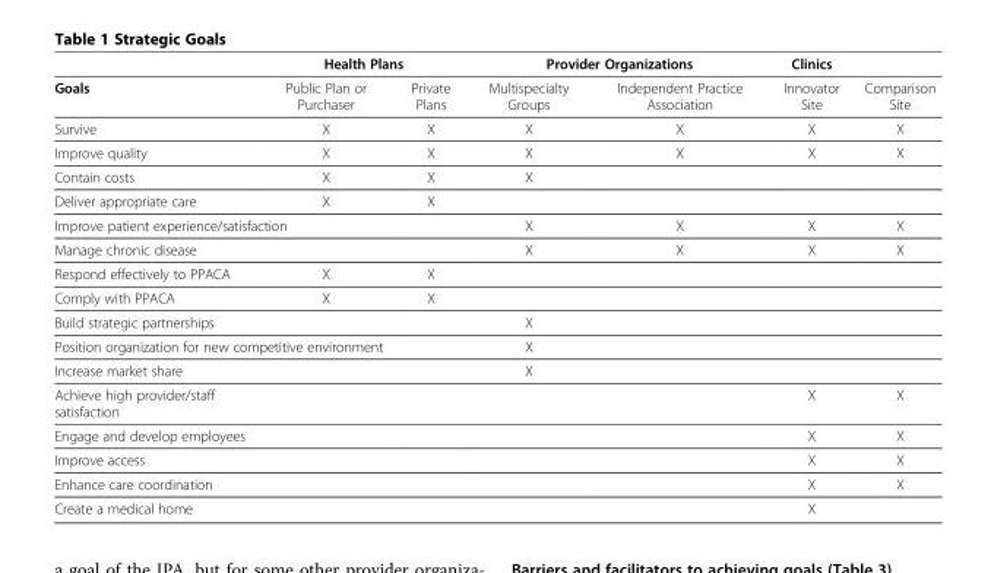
<table><thead><tr><td rowspan="2">Goals</td><td colspan="2">Health Plans</td><td colspan="2">Provider Organizations</td><td rowspan="2">Clinics Innovator Site</td><td rowspan="2">Comparison Site</td></tr><tr><td>Public Plan or Purchaser</td><td>Private Plans</td><td>Multispecialty Groups</td><td>Independent Practice Association</td></tr></thead><tbody><tr><td>Survive</td><td>X</td><td>X</td><td>X</td><td>X</td><td>X</td><td>X</td></tr><tr><td>Improve quality</td><td>X</td><td>X</td><td>X</td><td>X</td><td>X</td><td>X</td></tr><tr><td>Contain costs</td><td>X</td><td>X</td><td>X</td><td></td><td></td><td></td></tr><tr><td>Deliver appropriate care</td><td>X</td><td>X</td><td></td><td></td><td></td><td></td></tr><tr><td colspan="2">Improve patient experience/satisfaction</td><td></td><td>X</td><td>X</td><td>X</td><td>X</td></tr><tr><td>Manage chronic disease</td><td></td><td></td><td>X</td><td>X</td><td>X</td><td>X</td></tr><tr><td>Respond effectively to PPACA</td><td>X</td><td>X</td><td></td><td></td><td></td><td></td></tr><tr><td>Comply with PPACA</td><td>X</td><td>X</td><td></td><td></td><td></td><td></td></tr><tr><td>Build strategic partnerships</td><td></td><td></td><td>X</td><td></td><td></td><td></td></tr><tr><td colspan="3">Position organization for new competitive environment</td><td>X</td><td></td><td></td><td></td></tr><tr><td>Increase market share</td><td></td><td></td><td>X</td><td></td><td></td><td></td></tr><tr><td>Achieve high provider/staff satisfaction</td><td></td><td></td><td></td><td></td><td>X</td><td>X</td></tr><tr><td>Engage and develop employees</td><td></td><td></td><td></td><td></td><td>X</td><td>X</td></tr><tr><td>Improve access</td><td></td><td></td><td></td><td></td><td>X</td><td>X</td></tr><tr><td>Enhance care coordination</td><td></td><td></td><td></td><td></td><td>X</td><td>X</td></tr><tr><td>Create a medical home</td><td></td><td></td><td></td><td></td><td>X</td><td></td></tr></tbody></table>